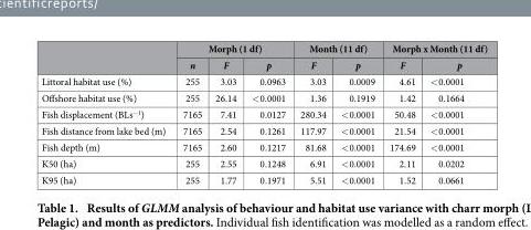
<table><thead><tr><td rowspan="2"></td><td colspan="3">Morph (1 df)</td><td colspan="2">Month (11 df)</td><td colspan="2">Morph x Month (11 df)</td></tr><tr><td>n</td><td>F</td><td>p</td><td>F</td><td>p</td><td>F</td><td>p</td></tr></thead><tbody><tr><td>Littoral habitat use (%)</td><td>255</td><td>3.03</td><td>0.0963</td><td>3.03</td><td>0.0009</td><td>4.61</td><td>&lt; 0.0001</td></tr><tr><td>Offshore habitat use (%)</td><td>255</td><td>26.14</td><td>&lt; 0.0001</td><td>1.36</td><td>0.1919</td><td>1.42</td><td>0.1664</td></tr><tr><td>Fish displacement (BLs<sup>−1</sup>)</td><td>7165</td><td>7.41</td><td>0.0127</td><td>280.34</td><td>&lt; 0.0001</td><td>50.48</td><td>&lt; 0.0001</td></tr><tr><td>Fish distance from lake bed (m)</td><td>7165</td><td>2.54</td><td>0.1261</td><td>117.97</td><td>&lt; 0.0001</td><td>21.54</td><td>&lt; 0.0001</td></tr><tr><td>Fish depth (m)</td><td>7165</td><td>2.60</td><td>0.1217</td><td>81.68</td><td>&lt; 0.0001</td><td>174.69</td><td>&lt; 0.0001</td></tr><tr><td>K50 (ha)</td><td>255</td><td>2.55</td><td>0.1248</td><td>6.91</td><td>&lt; 0.0001</td><td>2.11</td><td>0.0202</td></tr><tr><td>K95 (ha)</td><td>255</td><td>1.77</td><td>0.1971</td><td>5.51</td><td>&lt; 0.0001</td><td>1.52</td><td>0.0661</td></tr></tbody></table>